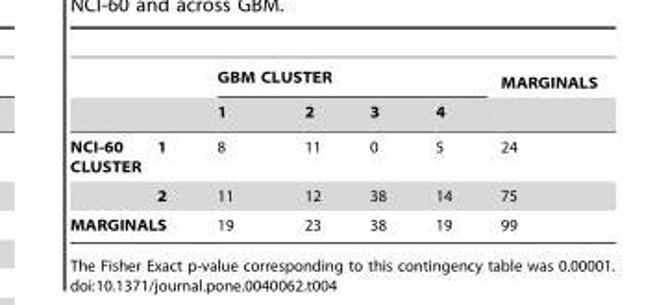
<table><thead><tr><td rowspan="2"></td><td rowspan="2"></td><td colspan="4">GBM CLUSTER</td><td rowspan="2">MARGINALS</td></tr><tr><td>1</td><td>2</td><td>3</td><td>4</td></tr></thead><tbody><tr><td rowspan="2">NCI-60 CLUSTER</td><td>1</td><td>8</td><td>11</td><td>0</td><td>5</td><td>24</td></tr><tr><td>2</td><td>11</td><td>12</td><td>38</td><td>14</td><td>75</td></tr><tr><td colspan="2">MARGINALS</td><td>19</td><td>23</td><td>38</td><td>19</td><td>99</td></tr></tbody></table>